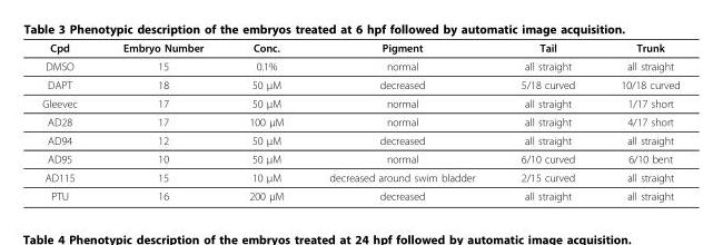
<table><thead><tr><td>Cpd</td><td>Embryo Number</td><td>Conc.</td><td>Pigment</td><td>Tail</td><td>Trunk</td></tr></thead><tbody><tr><td>DMSO</td><td>15</td><td>0.1%</td><td>normal</td><td>all straight</td><td>all straight</td></tr><tr><td>DAPT</td><td>18</td><td>50 μM</td><td>decreased</td><td>5/18 curved</td><td>10/18 curved</td></tr><tr><td>Gleevec</td><td>17</td><td>50 μM</td><td>normal</td><td>all straight</td><td>1/17 short</td></tr><tr><td>AD28</td><td>17</td><td>100 μM</td><td>normal</td><td>all straight</td><td>4/17 short</td></tr><tr><td>AD94</td><td>12</td><td>50 μM</td><td>decreased</td><td>all straight</td><td>all straight</td></tr><tr><td>AD95</td><td>10</td><td>50 μM</td><td>normal</td><td>6/10 curved</td><td>6/10 bent</td></tr><tr><td>AD115</td><td>15</td><td>10 μM</td><td>decreased around swim bladder</td><td>2/15 curved</td><td>all straight</td></tr><tr><td>PTU</td><td>16</td><td>200 μM</td><td>decreased</td><td>all straight</td><td>all straight</td></tr></tbody></table>